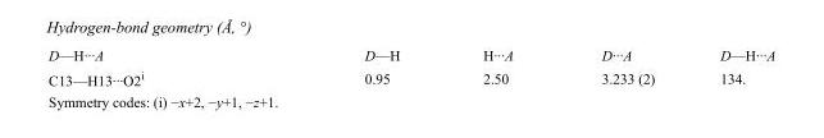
<table><tbody><tr><td>D—H···A</td><td>D—H</td><td>H···A</td><td>D···A</td><td>D—H···A</td></tr><tr><td>C13—H13···O2<sup>i</sup></td><td>0.95</td><td>2.50</td><td>3.233 (2)</td><td>134.</td></tr></tbody></table>